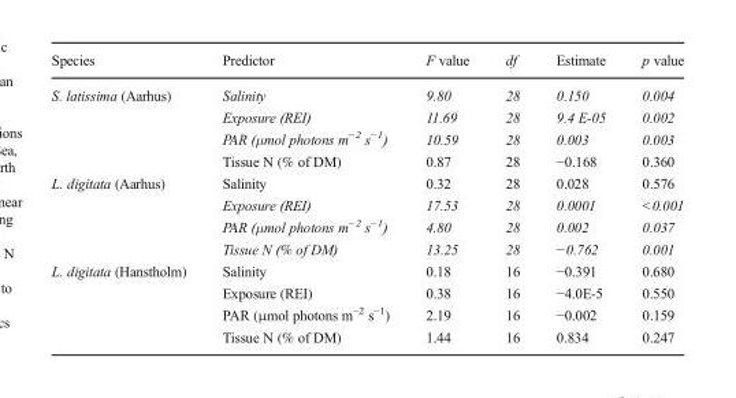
<table><thead><tr><td>Species</td><td>Predictor</td><td>F value</td><td>df</td><td>Estimate</td><td>p value</td></tr></thead><tbody><tr><td rowspan="4">S. latissima (Aarhus)</td><td>Salinity</td><td>9.80</td><td>28</td><td>0.150</td><td>0.004</td></tr><tr><td>Exposure (REI)</td><td>11.69</td><td>28</td><td>9.4 E-05</td><td>0.002</td></tr><tr><td>PAR (μmol photons m<sup>−2</sup> s<sup>−1</sup>)</td><td>10.59</td><td>28</td><td>0.003</td><td>0.003</td></tr><tr><td>Tissue N (% of DM)</td><td>0.87</td><td>28</td><td>−0.168</td><td>0.360</td></tr><tr><td rowspan="4">L. digitata (Aarhus)</td><td>Salinity</td><td>0.32</td><td>28</td><td>0.028</td><td>0.576</td></tr><tr><td>Exposure (REI)</td><td>17.53</td><td>28</td><td>0.0001</td><td>&lt;0.001</td></tr><tr><td>PAR (μmol photons m<sup>−2</sup> s<sup>−1</sup>)</td><td>4.80</td><td>28</td><td>0.002</td><td>0.037</td></tr><tr><td>Tissue N (% of DM)</td><td>13.25</td><td>28</td><td>−0.762</td><td>0.001</td></tr><tr><td rowspan="4">L. digitata (Hanstholm)</td><td>Salinity</td><td>0.18</td><td>16</td><td>−0.391</td><td>0.680</td></tr><tr><td>Exposure (REI)</td><td>0.38</td><td>16</td><td>−4.0E-5</td><td>0.550</td></tr><tr><td>PAR (μmol photons m<sup>−2</sup> s<sup>−1</sup>)</td><td>2.19</td><td>16</td><td>−0.002</td><td>0.159</td></tr><tr><td>Tissue N (% of DM)</td><td>1.44</td><td>16</td><td>0.834</td><td>0.247</td></tr></tbody></table>